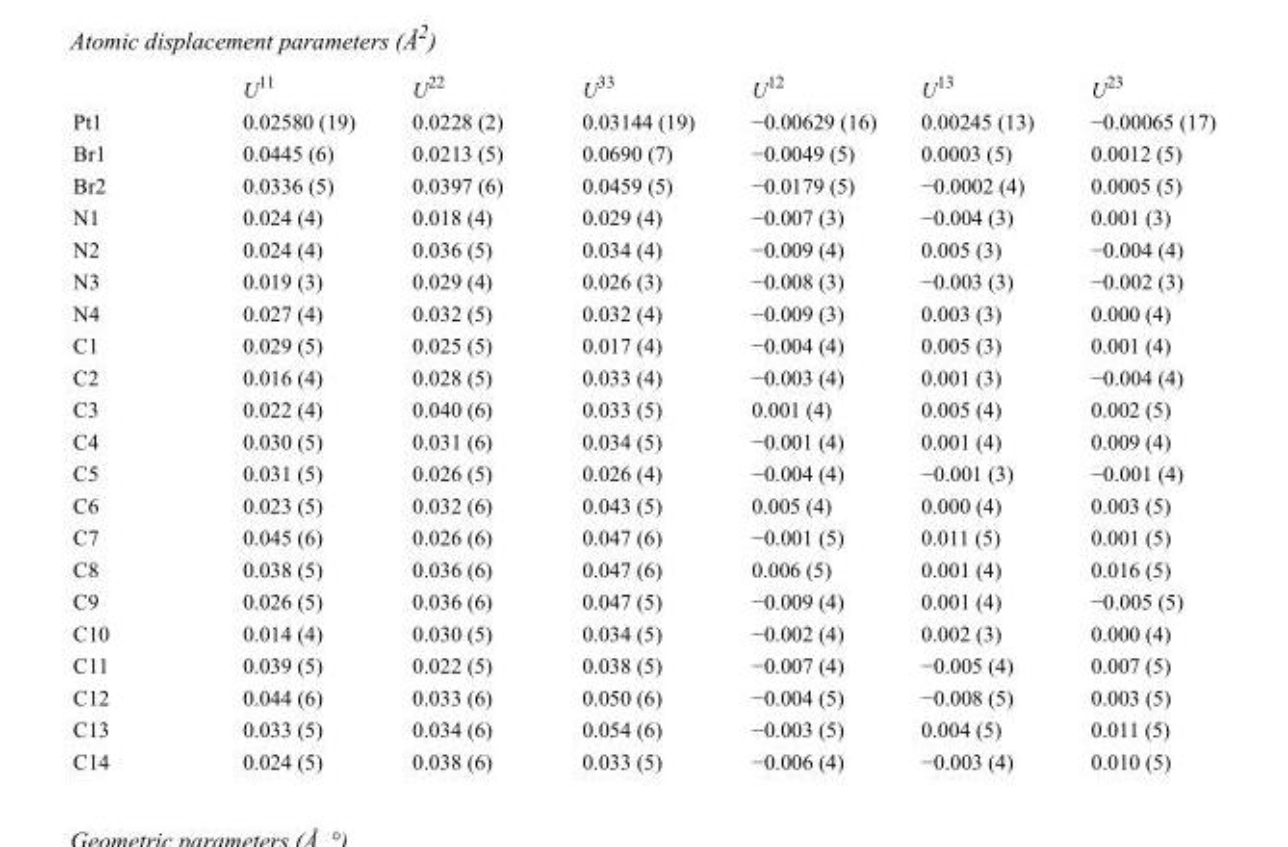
<table><thead><tr><td></td><td>U<sup>11</sup></td><td>U<sup>22</sup></td><td>U<sup>33</sup></td><td>U<sup>12</sup></td><td>U<sup>13</sup></td><td>U<sup>23</sup></td></tr></thead><tbody><tr><td>Pt1</td><td>0.02580 (19)</td><td>0.0228 (2)</td><td>0.03144 (19)</td><td>−0.00629 (16)</td><td>0.00245 (13)</td><td>−0.00065 (17)</td></tr><tr><td>Br1</td><td>0.0445 (6)</td><td>0.0213 (5)</td><td>0.0690 (7)</td><td>−0.0049 (5)</td><td>0.0003 (5)</td><td>0.0012 (5)</td></tr><tr><td>Br2</td><td>0.0336 (5)</td><td>0.0397 (6)</td><td>0.0459 (5)</td><td>−0.0179 (5)</td><td>−0.0002 (4)</td><td>0.0005 (5)</td></tr><tr><td>N1</td><td>0.024 (4)</td><td>0.018 (4)</td><td>0.029 (4)</td><td>−0.007 (3)</td><td>−0.004 (3)</td><td>0.001 (3)</td></tr><tr><td>N2</td><td>0.024 (4)</td><td>0.036 (5)</td><td>0.034 (4)</td><td>−0.009 (4)</td><td>0.005 (3)</td><td>−0.004 (4)</td></tr><tr><td>N3</td><td>0.019 (3)</td><td>0.029 (4)</td><td>0.026 (3)</td><td>−0.008 (3)</td><td>−0.003 (3)</td><td>−0.002 (3)</td></tr><tr><td>N4</td><td>0.027 (4)</td><td>0.032 (5)</td><td>0.032 (4)</td><td>−0.009 (3)</td><td>0.003 (3)</td><td>0.000 (4)</td></tr><tr><td>C1</td><td>0.029 (5)</td><td>0.025 (5)</td><td>0.017 (4)</td><td>−0.004 (4)</td><td>0.005 (3)</td><td>0.001 (4)</td></tr><tr><td>C2</td><td>0.016 (4)</td><td>0.028 (5)</td><td>0.033 (4)</td><td>−0.003 (4)</td><td>0.001 (3)</td><td>−0.004 (4)</td></tr><tr><td>C3</td><td>0.022 (4)</td><td>0.040 (6)</td><td>0.033 (5)</td><td>0.001 (4)</td><td>0.005 (4)</td><td>0.002 (5)</td></tr><tr><td>C4</td><td>0.030 (5)</td><td>0.031 (6)</td><td>0.034 (5)</td><td>−0.001 (4)</td><td>0.001 (4)</td><td>0.009 (4)</td></tr><tr><td>C5</td><td>0.031 (5)</td><td>0.026 (5)</td><td>0.026 (4)</td><td>−0.004 (4)</td><td>−0.001 (3)</td><td>−0.001 (4)</td></tr><tr><td>C6</td><td>0.023 (5)</td><td>0.032 (6)</td><td>0.043 (5)</td><td>0.005 (4)</td><td>0.000 (4)</td><td>0.003 (5)</td></tr><tr><td>C7</td><td>0.045 (6)</td><td>0.026 (6)</td><td>0.047 (6)</td><td>−0.001 (5)</td><td>0.011 (5)</td><td>0.001 (5)</td></tr><tr><td>C8</td><td>0.038 (5)</td><td>0.036 (6)</td><td>0.047 (6)</td><td>0.006 (5)</td><td>0.001 (4)</td><td>0.016 (5)</td></tr><tr><td>C9</td><td>0.026 (5)</td><td>0.036 (6)</td><td>0.047 (5)</td><td>−0.009 (4)</td><td>0.001 (4)</td><td>−0.005 (5)</td></tr><tr><td>C10</td><td>0.014 (4)</td><td>0.030 (5)</td><td>0.034 (5)</td><td>−0.002 (4)</td><td>0.002 (3)</td><td>0.000 (4)</td></tr><tr><td>C11</td><td>0.039 (5)</td><td>0.022 (5)</td><td>0.038 (5)</td><td>−0.007 (4)</td><td>−0.005 (4)</td><td>0.007 (5)</td></tr><tr><td>C12</td><td>0.044 (6)</td><td>0.033 (6)</td><td>0.050 (6)</td><td>−0.004 (5)</td><td>−0.008 (5)</td><td>0.003 (5)</td></tr><tr><td>C13</td><td>0.033 (5)</td><td>0.034 (6)</td><td>0.054 (6)</td><td>−0.003 (5)</td><td>0.004 (5)</td><td>0.011 (5)</td></tr><tr><td>C14</td><td>0.024 (5)</td><td>0.038 (6)</td><td>0.033 (5)</td><td>−0.006 (4)</td><td>−0.003 (4)</td><td>0.010 (5)</td></tr></tbody></table>